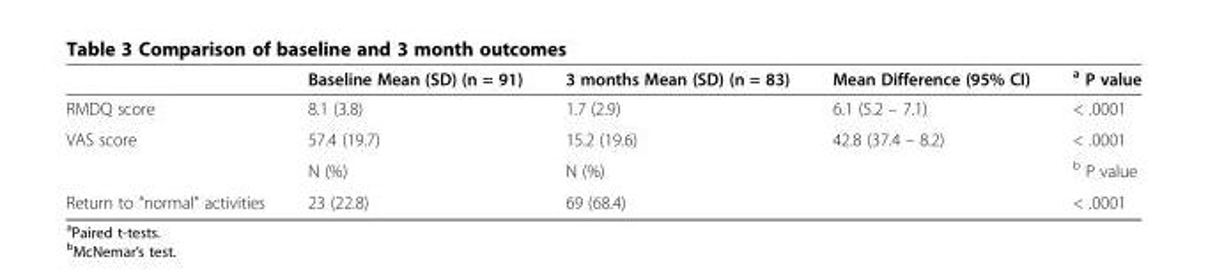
<table><thead><tr><td></td><td>Baseline Mean (SD) (n = 91)</td><td>3 months Mean (SD) (n = 83)</td><td>Mean Difference (95% CI)</td><td><sup>a</sup> P value</td></tr></thead><tbody><tr><td>RMDQ score</td><td>8.1 (3.8)</td><td>1.7 (2.9)</td><td>6.1 (5.2 – 7.1)</td><td>&lt; .0001</td></tr><tr><td rowspan="2">VAS score</td><td>57.4 (19.7)</td><td>15.2 (19.6)</td><td>42.8 (37.4 – 8.2)</td><td>&lt; .0001</td></tr><tr><td>N (%)</td><td>N (%)</td><td></td><td><sup>b</sup> P value</td></tr><tr><td>Return to “normal” activities</td><td>23 (22.8)</td><td>69 (68.4)</td><td></td><td>&lt; .0001</td></tr></tbody></table>